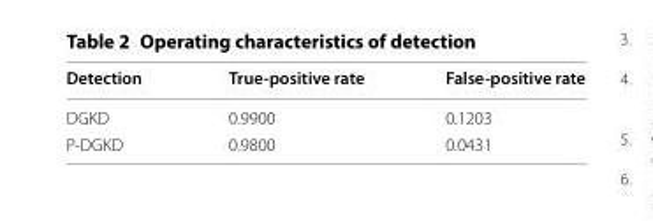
<table><thead><tr><td>Detection</td><td>True-positive rate</td><td>False-positive rate</td></tr></thead><tbody><tr><td>DGKD</td><td>0.9900</td><td>0.1203</td></tr><tr><td>P-DGKD</td><td>0.9800</td><td>0.0431</td></tr></tbody></table>